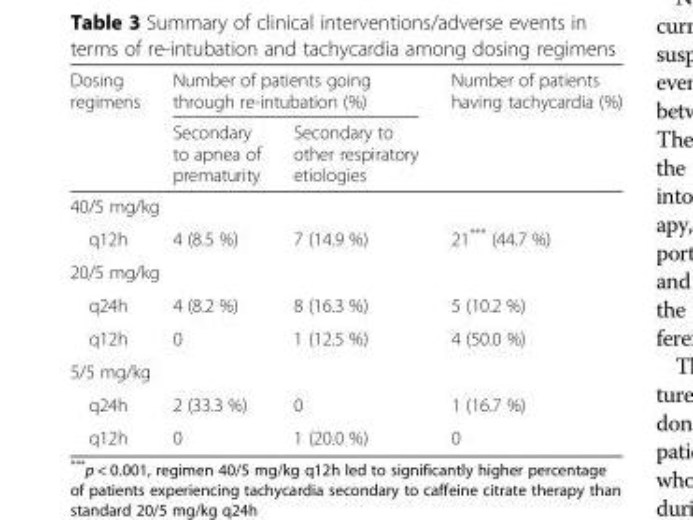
<table><thead><tr><td rowspan="2">Dosing regimens</td><td colspan="2">Number of patients going through re-intubation (%)</td><td rowspan="2">Number of patients having tachycardia (%)</td></tr><tr><td>Secondary to apnea of prematurity</td><td>Secondary to other respiratory etiologies</td></tr></thead><tbody><tr><td colspan="4">40/5 mg/kg</td></tr><tr><td>q12h</td><td>4 (8.5 %)</td><td>7 (14.9 %)</td><td>21*** (44.7 %)</td></tr><tr><td colspan="4">20/5 mg/kg</td></tr><tr><td>q24h</td><td>4 (8.2 %)</td><td>8 (16.3 %)</td><td>5 (10.2 %)</td></tr><tr><td>q12h</td><td>0</td><td>1 (12.5 %)</td><td>4 (50.0 %)</td></tr><tr><td colspan="4">5/5 mg/kg</td></tr><tr><td>q24h</td><td>2 (33.3 %)</td><td>0</td><td>1 (16.7 %)</td></tr><tr><td>q12h</td><td>0</td><td>1 (20.0 %)</td><td>0</td></tr></tbody></table>